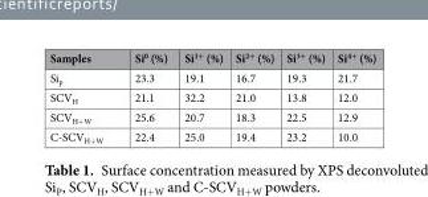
<table><thead><tr><td>Samples</td><td>Si<sup>0</sup> (%)</td><td>Si<sup>1+</sup> (%)</td><td>Si<sup>2+</sup> (%)</td><td>Si<sup>3+</sup> (%)</td><td>Si<sup>4+</sup> (%)</td></tr></thead><tbody><tr><td>Si<sub>p</sub></td><td>23.3</td><td>19.1</td><td>16.7</td><td>19.3</td><td>21.7</td></tr><tr><td>SCV<sub>H</sub></td><td>21.1</td><td>32.2</td><td>21.0</td><td>13.8</td><td>12.0</td></tr><tr><td>SCV<sub>H+W</sub></td><td>25.6</td><td>20.7</td><td>18.3</td><td>22.5</td><td>12.9</td></tr><tr><td>C-SCV<sub>H+W</sub></td><td>22.4</td><td>25.0</td><td>19.4</td><td>23.2</td><td>10.0</td></tr></tbody></table>